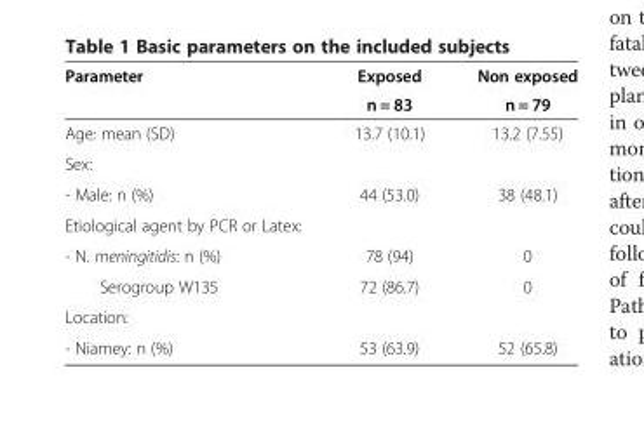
<table><thead><tr><td rowspan="2">Parameter</td><td rowspan="2">Exposed n = 83</td><td rowspan="2">Non exposed n = 79</td></tr><tr></tr></thead><tbody><tr><td>Age: mean (SD)</td><td>13.7 (10.1)</td><td>13.2 (7.55)</td></tr><tr><td colspan="3">Sex:</td></tr><tr><td>- Male: n (%)</td><td>44 (53.0)</td><td>38 (48.1)</td></tr><tr><td colspan="3">Etiological agent by PCR or Latex:</td></tr><tr><td>- N. meningitidis: n (%)</td><td>78 (94)</td><td>0</td></tr><tr><td>Serogroup W135</td><td>72 (86.7)</td><td>0</td></tr><tr><td colspan="3">Location:</td></tr><tr><td>- Niamey: n (%)</td><td>53 (63.9)</td><td>52 (65.8)</td></tr></tbody></table>